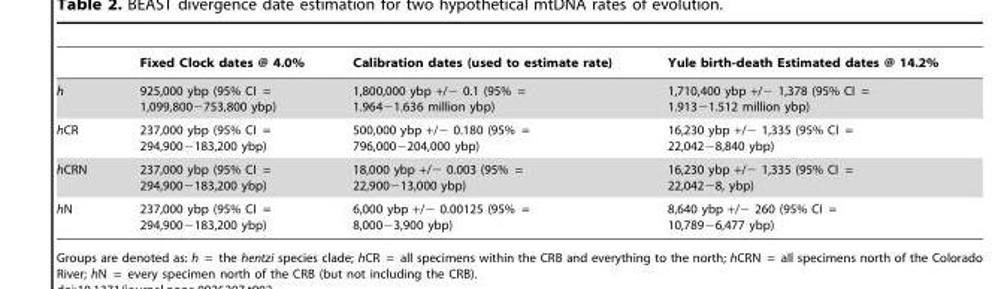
<table><thead><tr><td></td><td>Fixed Clock dates @ 4.0%</td><td>Calibration dates (used to estimate rate)</td><td>Yule birth-death Estimated dates @ 14.2%</td></tr></thead><tbody><tr><td>h</td><td>925,000 ybp (95% CI = 1,099,800−753,800 ybp)</td><td>1,800,000 ybp +/− 0.1 (95% = 1.964−1.636 million ybp)</td><td>1,710,400 ybp +/− 1,378 (95% CI = 1.913−1.512 million ybp)</td></tr><tr><td>hCR</td><td>237,000 ybp (95% CI = 294,900−183,200 ybp)</td><td>500,000 ybp +/− 0.180 (95% = 796,000−204,000 ybp)</td><td>16,230 ybp +/− 1,335 (95% CI = 22,042−8,840 ybp)</td></tr><tr><td>hCRN</td><td>237,000 ybp (95% CI = 294,900−183,200 ybp)</td><td>18,000 ybp +/− 0.003 (95% = 22,900−13,000 ybp)</td><td>16,230 ybp +/− 1,335 (95% CI = 22,042−8, ybp)</td></tr><tr><td>hN</td><td>237,000 ybp (95% CI = 294,900−183,200 ybp)</td><td>6,000 ybp +/− 0.00125 (95% = 8,000−3,900 ybp)</td><td>8,640 ybp +/− 260 (95% CI = 10,789−6,477 ybp)</td></tr></tbody></table>